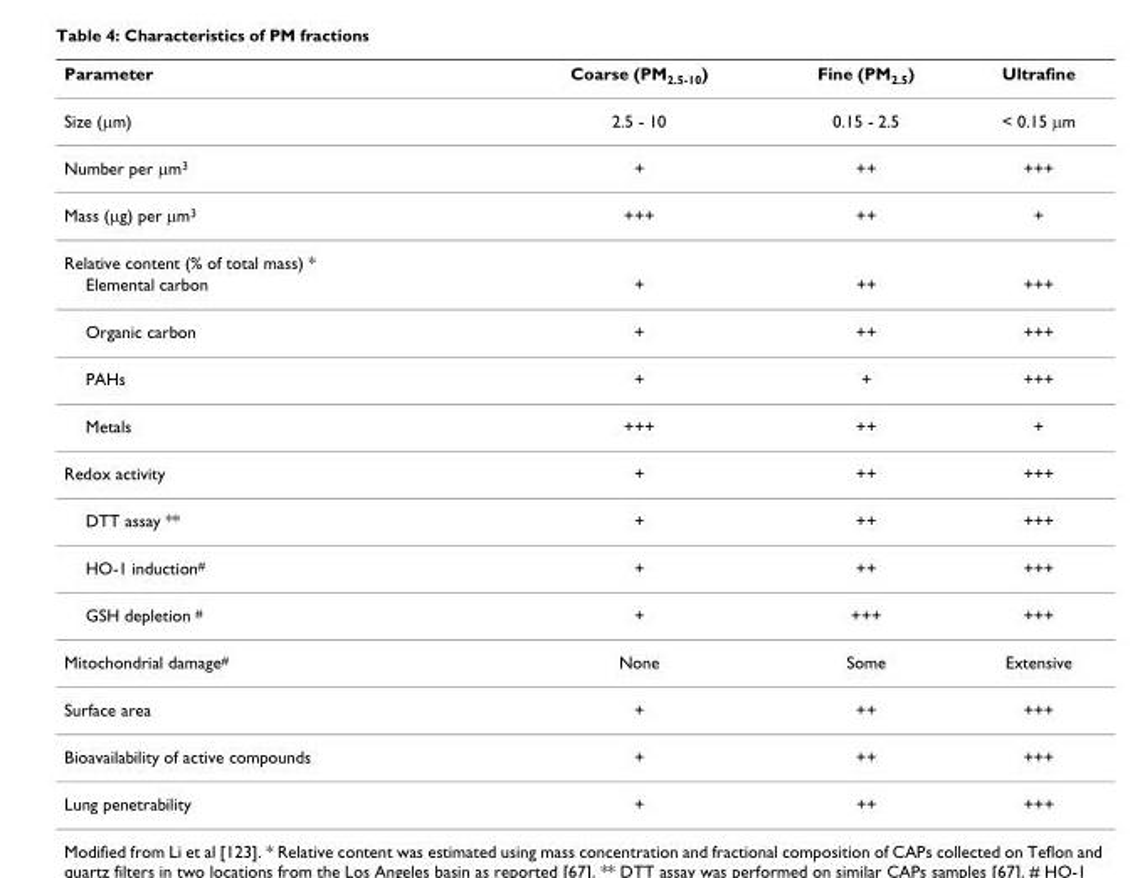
<table><thead><tr><td>Parameter</td><td>Coarse (PM<sub>2.5-10</sub>)</td><td>Fine (PM<sub>2.5</sub>)</td><td>Ultrafine</td></tr></thead><tbody><tr><td>Size (μm)</td><td>2.5 - 10</td><td>0.15 - 2.5</td><td>&lt; 0.15 μm</td></tr><tr><td>Number per μm<sup>3</sup></td><td>+</td><td>++</td><td>+++</td></tr><tr><td>Mass (μg) per μm<sup>3</sup></td><td>+++</td><td>++</td><td>+</td></tr><tr><td colspan="4">Relative content (% of total mass) *</td></tr><tr><td>Elemental carbon</td><td>+</td><td>++</td><td>+++</td></tr><tr><td>Organic carbon</td><td>+</td><td>++</td><td>+++</td></tr><tr><td>PAHs</td><td>+</td><td>+</td><td>+++</td></tr><tr><td>Metals</td><td>+++</td><td>++</td><td>+</td></tr><tr><td>Redox activity</td><td>+</td><td>++</td><td>+++</td></tr><tr><td>DTT assay **</td><td>+</td><td>++</td><td>+++</td></tr><tr><td>HO-1 induction<sup>#</sup></td><td>+</td><td>++</td><td>+++</td></tr><tr><td>GSH depletion <sup>#</sup></td><td>+</td><td>+++</td><td>+++</td></tr><tr><td>Mitochondrial damage<sup>#</sup></td><td>None</td><td>Some</td><td>Extensive</td></tr><tr><td>Surface area</td><td>+</td><td>++</td><td>+++</td></tr><tr><td>Bioavailability of active compounds</td><td>+</td><td>++</td><td>+++</td></tr><tr><td>Lung penetrability</td><td>+</td><td>++</td><td>+++</td></tr></tbody></table>